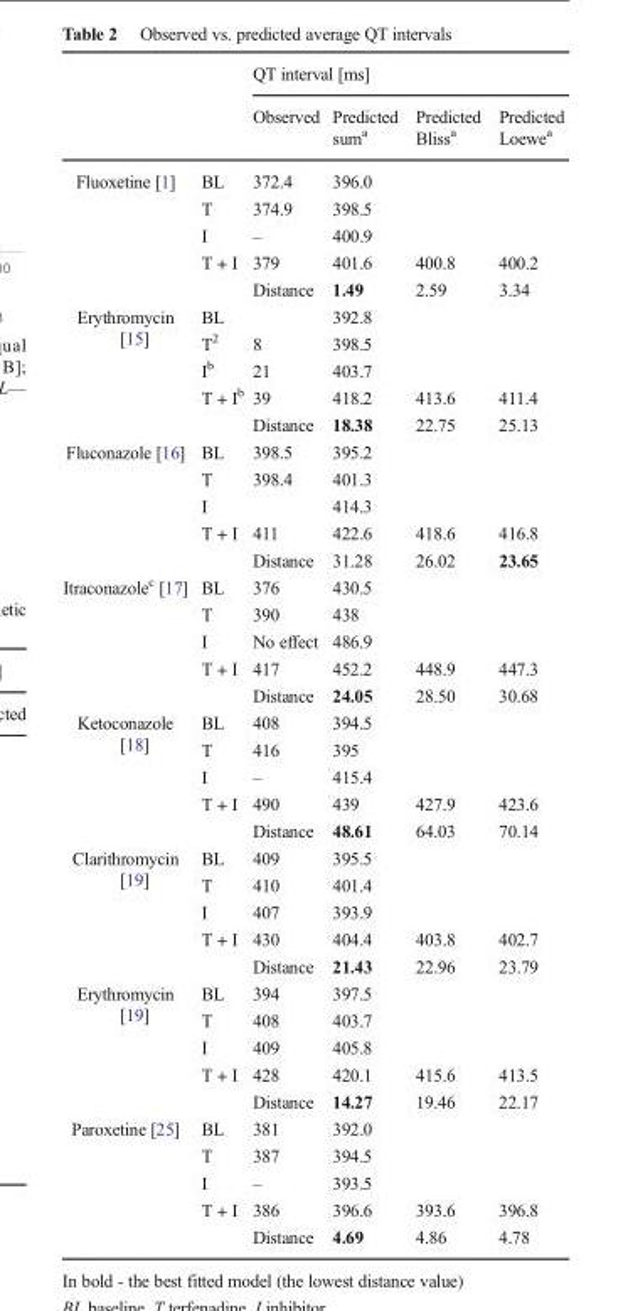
<table><thead><tr><td rowspan="2"></td><td rowspan="2"></td><td colspan="4">QT interval [ms]</td></tr><tr><td>Observed</td><td>Predicted sum<sup>a</sup></td><td>Predicted Bliss<sup>a</sup></td><td>Predicted Loewe<sup>a</sup></td></tr></thead><tbody><tr><td rowspan="5">Fluoxetine [1]</td><td>BL</td><td>372.4</td><td colspan="3">396.0</td></tr><tr><td>T</td><td>374.9</td><td colspan="3">398.5</td></tr><tr><td>I</td><td>–</td><td colspan="3">400.9</td></tr><tr><td>T + I</td><td>379</td><td>401.6</td><td>400.8</td><td>400.2</td></tr><tr><td></td><td>Distance</td><td>1.49</td><td>2.59</td><td>3.34</td></tr><tr><td rowspan="5">Erythromycin [15]</td><td>BL</td><td></td><td colspan="3">392.8</td></tr><tr><td>T<sup>2</sup></td><td>8</td><td colspan="3">398.5</td></tr><tr><td>I<sup>b</sup></td><td>21</td><td colspan="3">403.7</td></tr><tr><td>T + I<sup>b</sup></td><td>39</td><td>418.2</td><td>413.6</td><td>411.4</td></tr><tr><td></td><td>Distance</td><td>18.38</td><td>22.75</td><td>25.13</td></tr><tr><td rowspan="5">Fluconazole [16]</td><td>BL</td><td>398.5</td><td colspan="3">395.2</td></tr><tr><td>T</td><td>398.4</td><td colspan="3">401.3</td></tr><tr><td>I</td><td></td><td colspan="3">414.3</td></tr><tr><td>T + I</td><td>411</td><td>422.6</td><td>418.6</td><td>416.8</td></tr><tr><td></td><td>Distance</td><td>31.28</td><td>26.02</td><td>23.65</td></tr><tr><td rowspan="5">Itraconazole<sup>c</sup> [17]</td><td>BL</td><td>376</td><td colspan="3">430.5</td></tr><tr><td>T</td><td>390</td><td colspan="3">438</td></tr><tr><td>I</td><td>No effect</td><td colspan="3">486.9</td></tr><tr><td>T + I</td><td>417</td><td>452.2</td><td>448.9</td><td>447.3</td></tr><tr><td></td><td>Distance</td><td>24.05</td><td>28.50</td><td>30.68</td></tr><tr><td rowspan="5">Ketoconazole [18]</td><td>BL</td><td>408</td><td colspan="3">394.5</td></tr><tr><td>T</td><td>416</td><td colspan="3">395</td></tr><tr><td>I</td><td>–</td><td colspan="3">415.4</td></tr><tr><td>T + I</td><td>490</td><td>439</td><td>427.9</td><td>423.6</td></tr><tr><td></td><td>Distance</td><td>48.61</td><td>64.03</td><td>70.14</td></tr><tr><td rowspan="5">Clarithromycin [19]</td><td>BL</td><td>409</td><td colspan="3">395.5</td></tr><tr><td>T</td><td>410</td><td colspan="3">401.4</td></tr><tr><td>I</td><td>407</td><td colspan="3">393.9</td></tr><tr><td>T + I</td><td>430</td><td>404.4</td><td>403.8</td><td>402.7</td></tr><tr><td></td><td>Distance</td><td>21.43</td><td>22.96</td><td>23.79</td></tr><tr><td rowspan="5">Erythromycin [19]</td><td>BL</td><td>394</td><td colspan="3">397.5</td></tr><tr><td>T</td><td>408</td><td colspan="3">403.7</td></tr><tr><td>I</td><td>409</td><td colspan="3">405.8</td></tr><tr><td>T + I</td><td>428</td><td>420.1</td><td>415.6</td><td>413.5</td></tr><tr><td></td><td>Distance</td><td>14.27</td><td>19.46</td><td>22.17</td></tr><tr><td rowspan="5">Paroxetine [25]</td><td>BL</td><td>381</td><td colspan="3">392.0</td></tr><tr><td>T</td><td>387</td><td colspan="3">394.5</td></tr><tr><td>I</td><td>–</td><td colspan="3">393.5</td></tr><tr><td>T + I</td><td>386</td><td>396.6</td><td>393.6</td><td>396.8</td></tr><tr><td></td><td>Distance</td><td>4.69</td><td>4.86</td><td>4.78</td></tr></tbody></table>